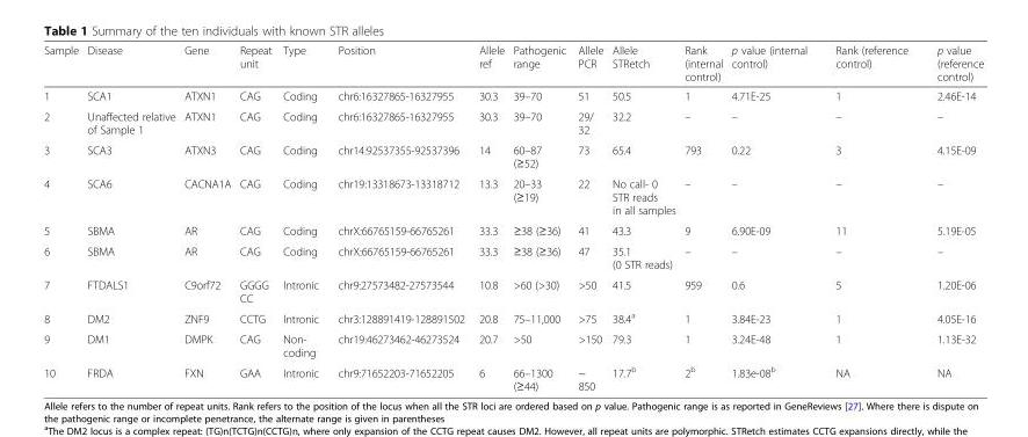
<table><thead><tr><td>Sample</td><td>Disease</td><td>Gene</td><td>Repeat unit</td><td>Type</td><td>Position</td><td>Allele ref</td><td>Pathogenic range</td><td>Allele PCR</td><td>Allele STRetch</td><td>Rank (internal control)</td><td>p value (internal control)</td><td>Rank (reference control)</td><td>p value (reference control)</td></tr></thead><tbody><tr><td>1</td><td>SCA1</td><td>ATXN1</td><td>CAG</td><td>Coding</td><td>chr6:16327865-16327955</td><td>30.3</td><td>39–70</td><td>51</td><td>50.5</td><td>1</td><td>4.71E-25</td><td>1</td><td>2.46E-14</td></tr><tr><td>2</td><td>Unaffected relative of Sample 1</td><td>ATXN1</td><td>CAG</td><td>Coding</td><td>chr6:16327865-16327955</td><td>30.3</td><td>39–70</td><td>29/ 32</td><td>32.2</td><td>–</td><td>–</td><td>–</td><td>–</td></tr><tr><td>3</td><td>SCA3</td><td>ATXN3</td><td>CAG</td><td>Coding</td><td>chr14:92537355-92537396</td><td>14</td><td>60–87 (≥52)</td><td>73</td><td>65.4</td><td>793</td><td>0.22</td><td>3</td><td>4.15E-09</td></tr><tr><td>4</td><td>SCA6</td><td>CACNA1A</td><td>CAG</td><td>Coding</td><td>chr19:13318673-13318712</td><td>13.3</td><td>20–33 (≥19)</td><td>22</td><td>No call- 0 STR reads in all samples</td><td>–</td><td>–</td><td>–</td><td>–</td></tr><tr><td>5</td><td>SBMA</td><td>AR</td><td>CAG</td><td>Coding</td><td>chrX:66765159-66765261</td><td>33.3</td><td>≥38 (≥36)</td><td>41</td><td>43.3</td><td>9</td><td>6.90E-09</td><td>11</td><td>5.19E-05</td></tr><tr><td>6</td><td>SBMA</td><td>AR</td><td>CAG</td><td>Coding</td><td>chrX:66765159-66765261</td><td>33.3</td><td>≥38 (≥36)</td><td>47</td><td>35.1 (0 STR reads)</td><td>–</td><td>–</td><td>–</td><td>–</td></tr><tr><td>7</td><td>FTDALS1</td><td>C9orf72</td><td>GGGG CC</td><td>Intronic</td><td>chr9:27573482-27573544</td><td>10.8</td><td>&gt;60 (&gt;30)</td><td>&gt;50</td><td>41.5</td><td>959</td><td>0.6</td><td>5</td><td>1.20E-06</td></tr><tr><td>8</td><td>DM2</td><td>ZNF9</td><td>CCTG</td><td>Intronic</td><td>chr3:128891419-128891502</td><td>20.8</td><td>75–11,000</td><td>&gt;75</td><td>38.4<sup>a</sup></td><td>1</td><td>3.84E-23</td><td>1</td><td>4.05E-16</td></tr><tr><td>9</td><td>DM1</td><td>DMPK</td><td>CAG</td><td>Non- coding</td><td>chr19:46273462-46273524</td><td>20.7</td><td>&gt;50</td><td>&gt;150</td><td>79.3</td><td>1</td><td>3.24E-48</td><td>1</td><td>1.13E-32</td></tr><tr><td>10</td><td>FRDA</td><td>FXN</td><td>GAA</td><td>Intronic</td><td>chr9:71652203-71652205</td><td>6</td><td>66–1300 (≥44)</td><td>~ 850</td><td>17.7<sup>b</sup></td><td>2<sup>b</sup></td><td>1.83e-08<sup>b</sup></td><td>NA</td><td>NA</td></tr></tbody></table>